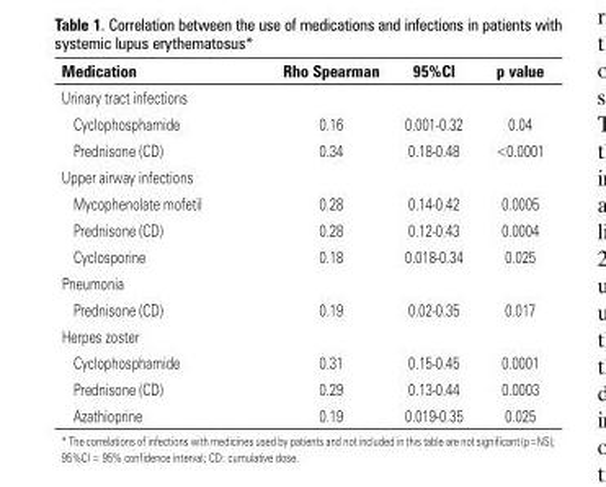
<table><thead><tr><td>Medication</td><td>Rho Spearman</td><td>95%CI</td><td>p value</td></tr></thead><tbody><tr><td colspan="4">Urinary tract infections</td></tr><tr><td>Cyclophosphamide</td><td>0.16</td><td>0.001-0.32</td><td>0.04</td></tr><tr><td>Prednisone (CD)</td><td>0.34</td><td>0.18-0.48</td><td>&lt;0.0001</td></tr><tr><td colspan="4">Upper airway infections</td></tr><tr><td>Mycophenolate mofetil</td><td>0.28</td><td>0.14-0.42</td><td>0.0005</td></tr><tr><td>Prednisone (CD)</td><td>0.28</td><td>0.12-0.43</td><td>0.0004</td></tr><tr><td>Cyclosporine</td><td>0.18</td><td>0.018-0.34</td><td>0.025</td></tr><tr><td colspan="4">Pneumonia</td></tr><tr><td>Prednisone (CD)</td><td>0.19</td><td>0.02-0.35</td><td>0.017</td></tr><tr><td colspan="4">Herpes zoster</td></tr><tr><td>Cyclophosphamide</td><td>0.31</td><td>0.15-0.45</td><td>0.0001</td></tr><tr><td>Prednisone (CD)</td><td>0.29</td><td>0.13-0.44</td><td>0.0003</td></tr><tr><td>Azathioprine</td><td>0.19</td><td>0.019-0.35</td><td>0.025</td></tr></tbody></table>